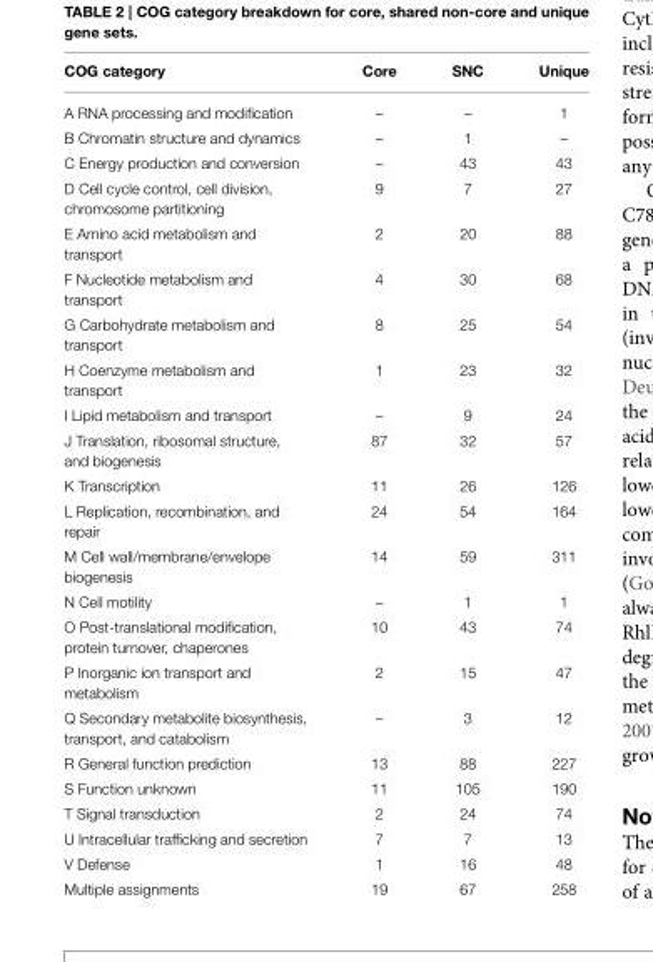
<table><thead><tr><td>COG category</td><td>Core</td><td>SNC</td><td>Unique</td></tr></thead><tbody><tr><td>A RNA processing and modification</td><td>–</td><td>–</td><td>1</td></tr><tr><td>B Chromatin structure and dynamics</td><td>–</td><td>1</td><td>–</td></tr><tr><td>C Energy production and conversion</td><td>–</td><td>43</td><td>43</td></tr><tr><td>D Cell cycle control, cell division, chromosome partitioning</td><td>9</td><td>7</td><td>27</td></tr><tr><td>E Amino acid metabolism and transport</td><td>2</td><td>20</td><td>88</td></tr><tr><td>F Nucleotide metabolism and transport</td><td>4</td><td>30</td><td>68</td></tr><tr><td>G Carbohydrate metabolism and transport</td><td>8</td><td>25</td><td>54</td></tr><tr><td>H Coenzyme metabolism and transport</td><td>1</td><td>23</td><td>32</td></tr><tr><td>I Lipid metabolism and transport</td><td>–</td><td>9</td><td>24</td></tr><tr><td>J Translation, ribosomal structure, and biogenesis</td><td>87</td><td>32</td><td>57</td></tr><tr><td>K Transcription</td><td>11</td><td>26</td><td>126</td></tr><tr><td>L Replication, recombination, and repair</td><td>24</td><td>54</td><td>164</td></tr><tr><td>M Cell wall/membrane/envelope biogenesis</td><td>14</td><td>59</td><td>311</td></tr><tr><td>N Cell motility</td><td>–</td><td>1</td><td>1</td></tr><tr><td>O Post-translational modification, protein turnover, chaperones</td><td>10</td><td>43</td><td>74</td></tr><tr><td>P Inorganic ion transport and metabolism</td><td>2</td><td>15</td><td>47</td></tr><tr><td>Q Secondary metabolite biosynthesis, transport, and catabolism</td><td>–</td><td>3</td><td>12</td></tr><tr><td>R General function prediction</td><td>13</td><td>88</td><td>227</td></tr><tr><td>S Function unknown</td><td>11</td><td>105</td><td>190</td></tr><tr><td>T Signal transduction</td><td>2</td><td>24</td><td>74</td></tr><tr><td>U Intracellular trafficking and secretion</td><td>7</td><td>7</td><td>13</td></tr><tr><td>V Defense</td><td>1</td><td>16</td><td>48</td></tr><tr><td>Multiple assignments</td><td>19</td><td>67</td><td>258</td></tr></tbody></table>